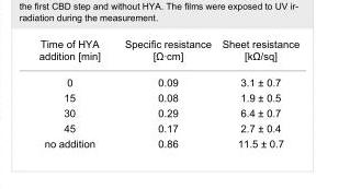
<table><tbody><tr><td>Time of HYA addition [min]</td><td>Specific resistance [Ω∙cm]</td><td>Sheet resistance [kΩ/sq]</td></tr><tr><td>0</td><td>0.09</td><td>3.1 ± 0.7</td></tr><tr><td>15</td><td>0.08</td><td>1.9 ± 0.5</td></tr><tr><td>30</td><td>0.29</td><td>6.4 ± 0.7</td></tr><tr><td>45</td><td>0.17</td><td>2.7 ± 0.4</td></tr><tr><td>no addition</td><td>0.86</td><td>11.5 ± 0.7</td></tr></tbody></table>